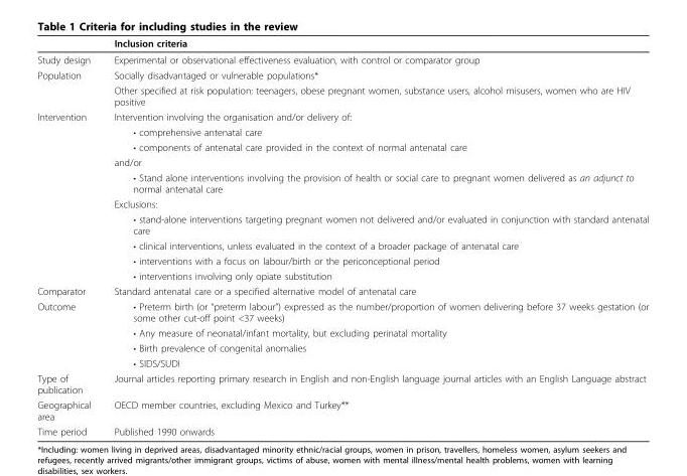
<table><thead><tr><td></td><td>Inclusion criteria</td></tr></thead><tbody><tr><td>Study design</td><td>Experimental or observational effectiveness evaluation, with control or comparator group</td></tr><tr><td rowspan="2">Population</td><td>Socially disadvantaged or vulnerable populations*</td></tr><tr><td>Other specified at risk population: teenagers, obese pregnant women, substance users, alcohol misusers, women who are HIV positive</td></tr><tr><td rowspan="10">Intervention</td><td>Intervention involving the organisation and/or delivery of:</td></tr><tr><td>• comprehensive antenatal care</td></tr><tr><td>• components of antenatal care provided in the context of normal antenatal care</td></tr><tr><td>and/or</td></tr><tr><td>• Stand alone interventions involving the provision of health or social care to pregnant women delivered as an adjunct to normal antenatal care</td></tr><tr><td>Exclusions:</td></tr><tr><td>• stand-alone interventions targeting pregnant women not delivered and/or evaluated in conjunction with standard antenatal care</td></tr><tr><td>• clinical interventions, unless evaluated in the context of a broader package of antenatal care</td></tr><tr><td>• interventions with a focus on labour/birth or the periconceptional period</td></tr><tr><td>• interventions involving only opiate substitution</td></tr><tr><td>Comparator</td><td>Standard antenatal care or a specified alternative model of antenatal care</td></tr><tr><td rowspan="4">Outcome</td><td>• Preterm birth (or “preterm labour”) expressed as the number/proportion of women delivering before 37 weeks gestation (or some other cut-off point &lt;37 weeks)</td></tr><tr><td>• Any measure of neonatal/infant mortality, but excluding perinatal mortality</td></tr><tr><td>• Birth prevalence of congenital anomalies</td></tr><tr><td>• SIDS/SUDI</td></tr><tr><td>Type of publication</td><td>Journal articles reporting primary research in English and non-English language journal articles with an English Language abstract</td></tr><tr><td>Geographical area</td><td>OECD member countries, excluding Mexico and Turkey**</td></tr><tr><td>Time period</td><td>Published 1990 onwards</td></tr></tbody></table>